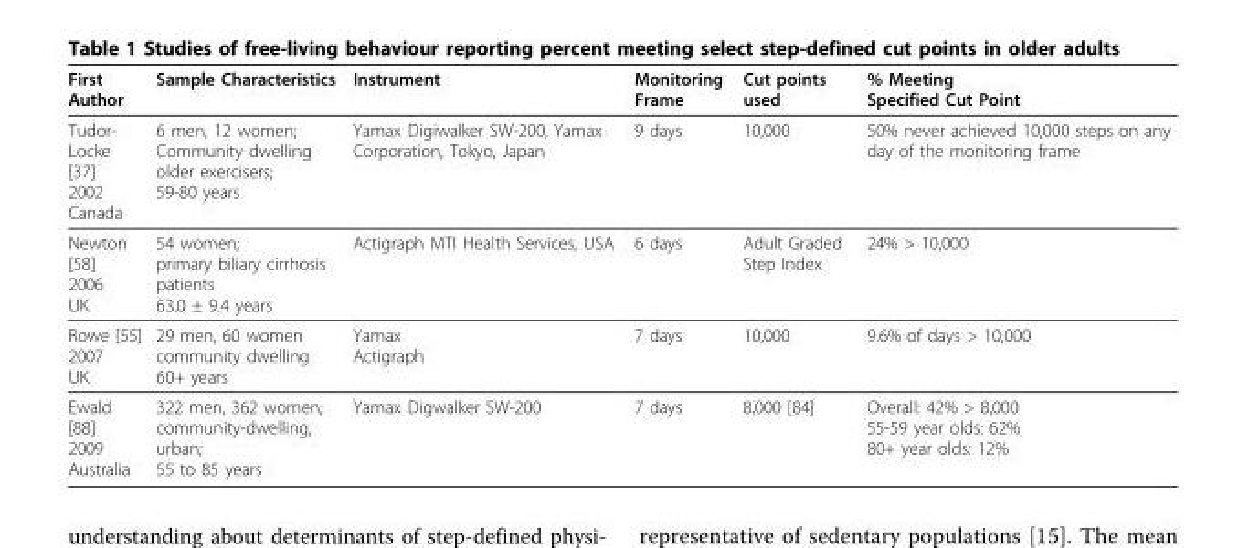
<table><thead><tr><td>First Author</td><td>Sample Characteristics</td><td>Instrument</td><td>Monitoring Frame</td><td>Cut points used</td><td>% Meeting Specified Cut Point</td></tr></thead><tbody><tr><td>Tudor- Locke [37] 2002 Canada</td><td>6 men, 12 women; Community dwelling older exercisers; 59-80 years</td><td>Yamax Digiwalker SW-200, Yamax Corporation, Tokyo, Japan</td><td>9 days</td><td>10,000</td><td>50% never achieved 10,000 steps on any day of the monitoring frame</td></tr><tr><td>Newton [58] 2006 UK</td><td>54 women; primary biliary cirrhosis patients 63.0 ± 9.4 years</td><td>Actigraph MTI Health Services, USA</td><td>6 days</td><td>Adult Graded Step Index</td><td>24% &gt; 10,000</td></tr><tr><td>Rowe [55] 2007 UK</td><td>29 men, 60 women community dwelling 60+ years</td><td>Yamax Actigraph</td><td>7 days</td><td>10,000</td><td>9.6% of days &gt; 10,000</td></tr><tr><td>Ewald [88] 2009 Australia</td><td>322 men, 362 women; community-dwelling, urban; 55 to 85 years</td><td>Yamax Digwalker SW-200</td><td>7 days</td><td>8,000 [84]</td><td>Overall: 42% &gt; 8,000 55-59 year olds: 62% 80+ year olds: 12%</td></tr></tbody></table>